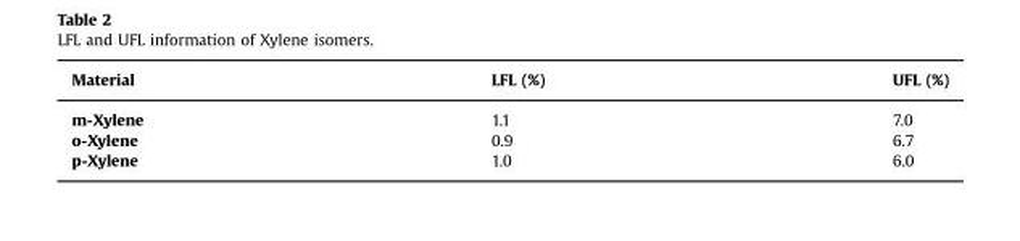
<table><thead><tr><td>Material</td><td>LFL (%)</td><td>UFL (%)</td></tr></thead><tbody><tr><td>m-Xylene</td><td>1.1</td><td>7.0</td></tr><tr><td>o-Xylene</td><td>0.9</td><td>6.7</td></tr><tr><td>p-Xylene</td><td>1.0</td><td>6.0</td></tr></tbody></table>